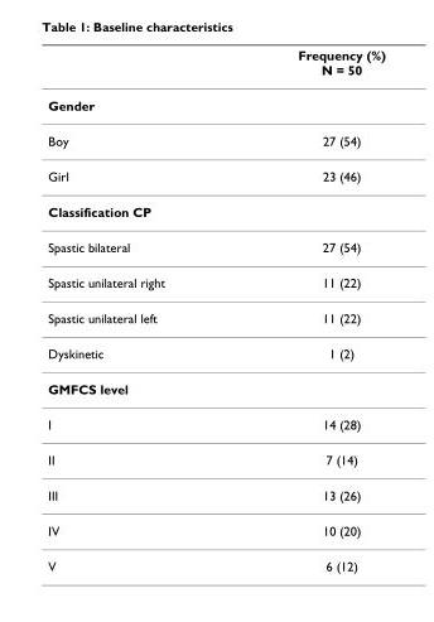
<table><thead><tr><td></td><td>Frequency (%) N = 50</td></tr></thead><tbody><tr><td colspan="2">Gender</td></tr><tr><td>Boy</td><td>27 (54)</td></tr><tr><td>Girl</td><td>23 (46)</td></tr><tr><td colspan="2">Classification CP</td></tr><tr><td>Spastic bilateral</td><td>27 (54)</td></tr><tr><td>Spastic unilateral right</td><td>11 (22)</td></tr><tr><td>Spastic unilateral left</td><td>11 (22)</td></tr><tr><td>Dyskinetic</td><td>1 (2)</td></tr><tr><td colspan="2">GMFCS level</td></tr><tr><td>I</td><td>14 (28)</td></tr><tr><td>II</td><td>7 (14)</td></tr><tr><td>III</td><td>13 (26)</td></tr><tr><td>IV</td><td>10 (20)</td></tr><tr><td>V</td><td>6 (12)</td></tr></tbody></table>